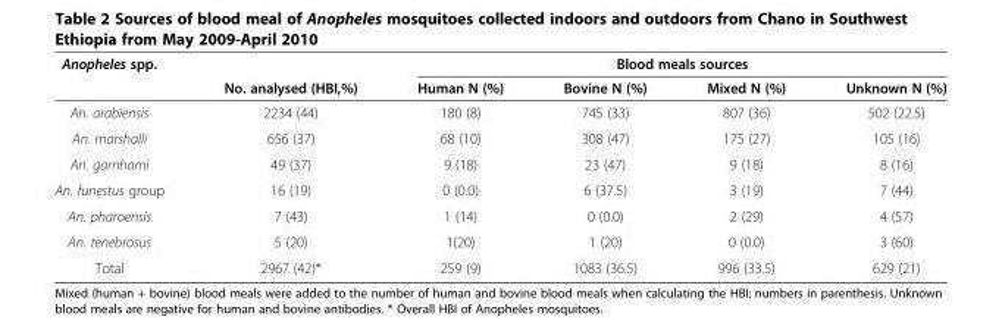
<table><thead><tr><td rowspan="2">Anopheles spp.</td><td rowspan="2">No. analysed (HBI,%)</td><td colspan="4">Blood meals sources</td></tr><tr><td>Human N (%)</td><td>Bovine N (%)</td><td>Mixed N (%)</td><td>Unknown N (%)</td></tr></thead><tbody><tr><td>An. arabiensis</td><td>2234 (44)</td><td>180 (8)</td><td>745 (33)</td><td>807 (36)</td><td>502 (22.5)</td></tr><tr><td>An. marshalli</td><td>656 (37)</td><td>68 (10)</td><td>308 (47)</td><td>175 (27)</td><td>105 (16)</td></tr><tr><td>An. garnhami</td><td>49 (37)</td><td>9 (18)</td><td>23 (47)</td><td>9 (18)</td><td>8 (16)</td></tr><tr><td>An. funestus group</td><td>16 (19)</td><td>0 (0.0)</td><td>6 (37.5)</td><td>3 (19)</td><td>7 (44)</td></tr><tr><td>An. pharoensis</td><td>7 (43)</td><td>1 (14)</td><td>0 (0.0)</td><td>2 (29)</td><td>4 (57)</td></tr><tr><td>An. tenebrosus</td><td>5 (20)</td><td>1(20)</td><td>1 (20)</td><td>0 (0.0)</td><td>3 (60)</td></tr><tr><td>Total</td><td>2967 (42)*</td><td>259 (9)</td><td>1083 (36.5)</td><td>996 (33.5)</td><td>629 (21)</td></tr></tbody></table>